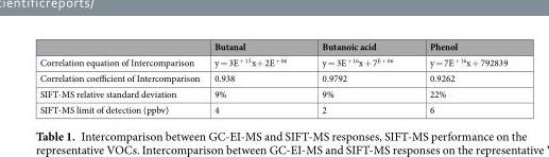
<table><thead><tr><td></td><td>Butanal</td><td>Butanoic acid</td><td>Phenol</td></tr></thead><tbody><tr><td>Correlation equation of Intercomparison</td><td>y = 3E <sup>+ 15</sup> x+ 2E <sup>+ 06</sup></td><td>y = 3E <sup>+ 16</sup>x + 7<sup>E + 06</sup></td><td>y = 7E <sup>+ 16</sup>x + 792839</td></tr><tr><td>Correlation coefficient of Intercomparison</td><td>0.938</td><td>0.9792</td><td>0.9262</td></tr><tr><td>SIFT-MS relative standard deviation</td><td>9%</td><td>9%</td><td>22%</td></tr><tr><td>SIFT-MS limit of detection (ppbv)</td><td>4</td><td>2</td><td>6</td></tr></tbody></table>